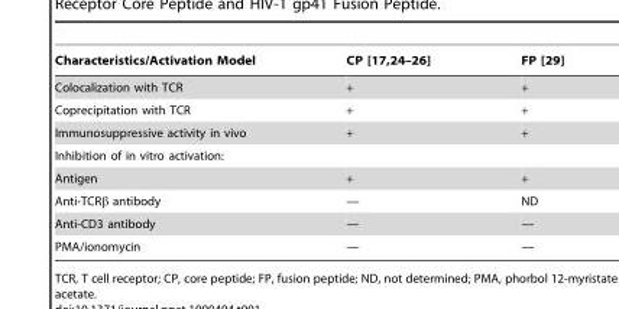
<table><thead><tr><td>Characteristics/Activation Model</td><td>CP [17,24–26]</td><td>FP [29]</td></tr></thead><tbody><tr><td>Colocalization with TCR</td><td>+</td><td>+</td></tr><tr><td>Coprecipitation with TCR</td><td>+</td><td>+</td></tr><tr><td>Immunosuppressive activity in vivo</td><td>+</td><td>+</td></tr><tr><td colspan="3">Inhibition of in vitro activation:</td></tr><tr><td>Antigen</td><td>+</td><td>+</td></tr><tr><td>Anti-TCRβ antibody</td><td>—</td><td>ND</td></tr><tr><td>Anti-CD3 antibody</td><td>—</td><td>—</td></tr><tr><td>PMA/ionomycin</td><td>—</td><td>—</td></tr></tbody></table>